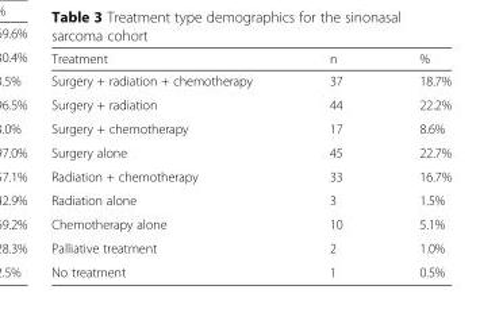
<table><thead><tr><td>Treatment</td><td>n</td><td>%</td></tr></thead><tbody><tr><td>Surgery + radiation + chemotherapy</td><td>37</td><td>18.7%</td></tr><tr><td>Surgery + radiation</td><td>44</td><td>22.2%</td></tr><tr><td>Surgery + chemotherapy</td><td>17</td><td>8.6%</td></tr><tr><td>Surgery alone</td><td>45</td><td>22.7%</td></tr><tr><td>Radiation + chemotherapy</td><td>33</td><td>16.7%</td></tr><tr><td>Radiation alone</td><td>3</td><td>1.5%</td></tr><tr><td>Chemotherapy alone</td><td>10</td><td>5.1%</td></tr><tr><td>Palliative treatment</td><td>2</td><td>1.0%</td></tr><tr><td>No treatment</td><td>1</td><td>0.5%</td></tr></tbody></table>